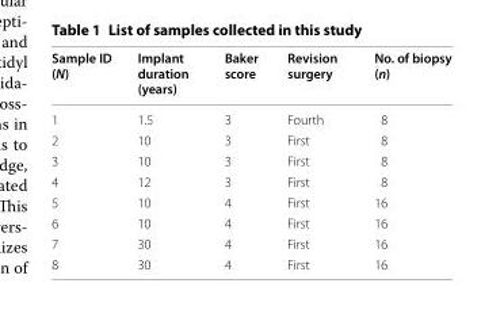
<table><thead><tr><td>Sample ID (N)</td><td>Implant duration (years)</td><td>Baker score</td><td>Revision surgery</td><td>No. of biopsy (n)</td></tr></thead><tbody><tr><td>1</td><td>1.5</td><td>3</td><td>Fourth</td><td>8</td></tr><tr><td>2</td><td>10</td><td>3</td><td>First</td><td>8</td></tr><tr><td>3</td><td>10</td><td>3</td><td>First</td><td>8</td></tr><tr><td>4</td><td>12</td><td>3</td><td>First</td><td>8</td></tr><tr><td>5</td><td>10</td><td>4</td><td>First</td><td>16</td></tr><tr><td>6</td><td>10</td><td>4</td><td>First</td><td>16</td></tr><tr><td>7</td><td>30</td><td>4</td><td>First</td><td>16</td></tr><tr><td>8</td><td>30</td><td>4</td><td>First</td><td>16</td></tr></tbody></table>